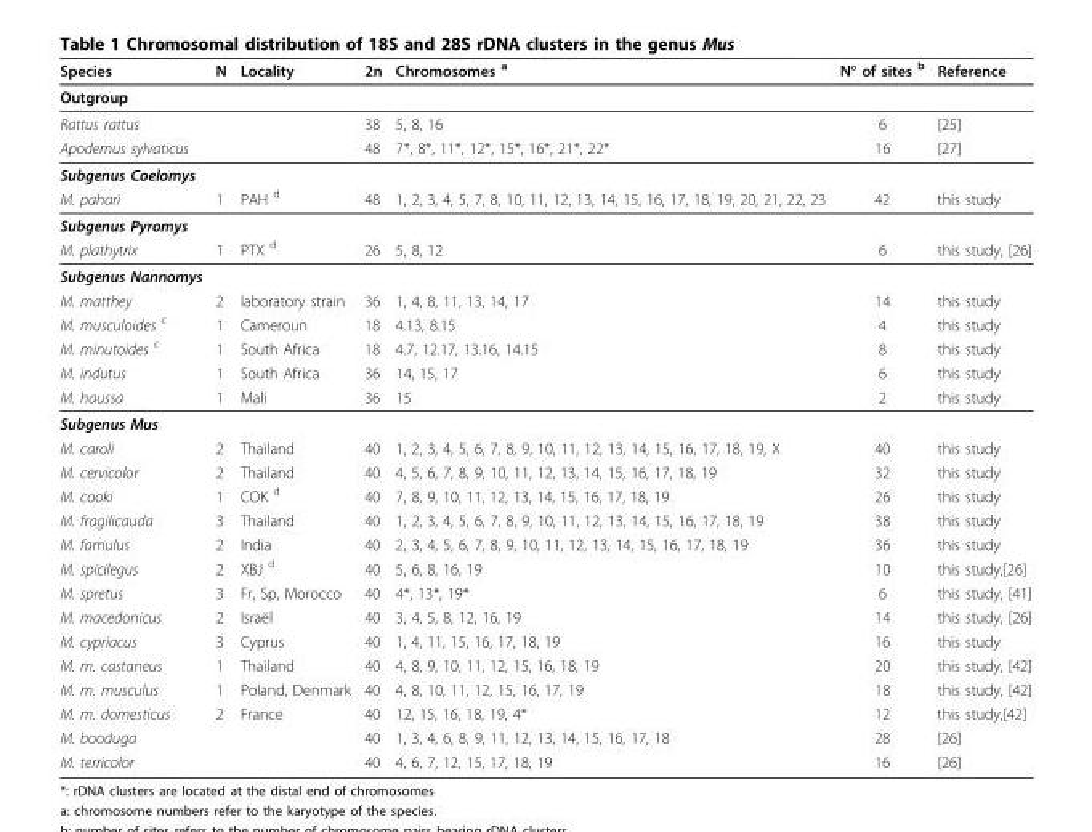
<table><thead><tr><td>Species</td><td>N</td><td>Locality</td><td>2n</td><td>Chromosomes <sup>a</sup></td><td>N° of sites <sup>b</sup></td><td>Reference</td></tr></thead><tbody><tr><td colspan="7">Outgroup</td></tr><tr><td>Rattus rattus</td><td></td><td></td><td>38</td><td>5, 8, 16</td><td>6</td><td>[25]</td></tr><tr><td>Apodemus sylvaticus</td><td></td><td></td><td>48</td><td>7*, 8*, 11*, 12*, 15*, 16*, 21*, 22*</td><td>16</td><td>[27]</td></tr><tr><td colspan="7">Subgenus Coelomys</td></tr><tr><td>M. pahari</td><td>1</td><td>PAH <sup>d</sup></td><td>48</td><td>1, 2, 3, 4, 5, 7, 8, 10, 11, 12, 13, 14, 15, 16, 17, 18, 19, 20, 21, 22, 23</td><td>42</td><td>this study</td></tr><tr><td colspan="7">Subgenus Pyromys</td></tr><tr><td>M. plathytrix</td><td>1</td><td>PTX <sup>d</sup></td><td>26</td><td>5, 8, 12</td><td>6</td><td>this study, [26]</td></tr><tr><td colspan="7">Subgenus Nannomys</td></tr><tr><td>M. matthey</td><td>2</td><td>laboratory strain</td><td>36</td><td>1, 4, 8, 11, 13, 14, 17</td><td>14</td><td>this study</td></tr><tr><td>M. musculoides <sup>c</sup></td><td>1</td><td>Cameroun</td><td>18</td><td>4.13, 8.15</td><td>4</td><td>this study</td></tr><tr><td>M. minutoides <sup>c</sup></td><td>1</td><td>South Africa</td><td>18</td><td>4.7, 12.17, 13.16, 14.15</td><td>8</td><td>this study</td></tr><tr><td>M. indutus</td><td>1</td><td>South Africa</td><td>36</td><td>14, 15, 17</td><td>6</td><td>this study</td></tr><tr><td>M. haussa</td><td>1</td><td>Mali</td><td>36</td><td>15</td><td>2</td><td>this study</td></tr><tr><td colspan="7">Subgenus Mus</td></tr><tr><td>M. caroli</td><td>2</td><td>Thailand</td><td>40</td><td>1, 2, 3, 4, 5, 6, 7, 8, 9, 10, 11, 12, 13, 14, 15, 16, 17, 18, 19, X</td><td>40</td><td>this study</td></tr><tr><td>M. cervicolor</td><td>2</td><td>Thailand</td><td>40</td><td>4, 5, 6, 7, 8, 9, 10, 11, 12, 13, 14, 15, 16, 17, 18, 19</td><td>32</td><td>this study</td></tr><tr><td>M. cooki</td><td>1</td><td>COK <sup>d</sup></td><td>40</td><td>7, 8, 9, 10, 11, 12, 13, 14, 15, 16, 17, 18, 19</td><td>26</td><td>this study</td></tr><tr><td>M. fragilicauda</td><td>3</td><td>Thailand</td><td>40</td><td>1, 2, 3, 4, 5, 6, 7, 8, 9, 10, 11, 12, 13, 14, 15, 16, 17, 18, 19</td><td>38</td><td>this study</td></tr><tr><td>M. famulus</td><td>2</td><td>India</td><td>40</td><td>2, 3, 4, 5, 6, 7, 8, 9, 10, 11, 12, 13, 14, 15, 16, 17, 18, 19</td><td>36</td><td>this study</td></tr><tr><td>M. spicilegus</td><td>2</td><td>XBJ <sup>d</sup></td><td>40</td><td>5, 6, 8, 16, 19</td><td>10</td><td>this study,[26]</td></tr><tr><td>M. spretus</td><td>3</td><td>Fr, Sp, Morocco</td><td>40</td><td>4*, 13*, 19*</td><td>6</td><td>this study, [41]</td></tr><tr><td>M. macedonicus</td><td>2</td><td>Israël</td><td>40</td><td>3, 4, 5, 8, 12, 16, 19</td><td>14</td><td>this study, [26]</td></tr><tr><td>M. cypriacus</td><td>3</td><td>Cyprus</td><td>40</td><td>1, 4, 11, 15, 16, 17, 18, 19</td><td>16</td><td>this study</td></tr><tr><td>M. m. castaneus</td><td>1</td><td>Thailand</td><td>40</td><td>4, 8, 9, 10, 11, 12, 15, 16, 18, 19</td><td>20</td><td>this study, [42]</td></tr><tr><td>M. m. musculus</td><td>1</td><td>Poland, Denmark</td><td>40</td><td>4, 8, 10, 11, 12, 15, 16, 17, 19</td><td>18</td><td>this study, [42]</td></tr><tr><td>M. m. domesticus</td><td>2</td><td>France</td><td>40</td><td>12, 15, 16, 18, 19, 4*</td><td>12</td><td>this study,[42]</td></tr><tr><td>M. booduga</td><td></td><td></td><td>40</td><td>1, 3, 4, 6, 8, 9, 11, 12, 13, 14, 15, 16, 17, 18</td><td>28</td><td>[26]</td></tr><tr><td>M. terricolor</td><td></td><td></td><td>40</td><td>4, 6, 7, 12, 15, 17, 18, 19</td><td>16</td><td>[26]</td></tr></tbody></table>